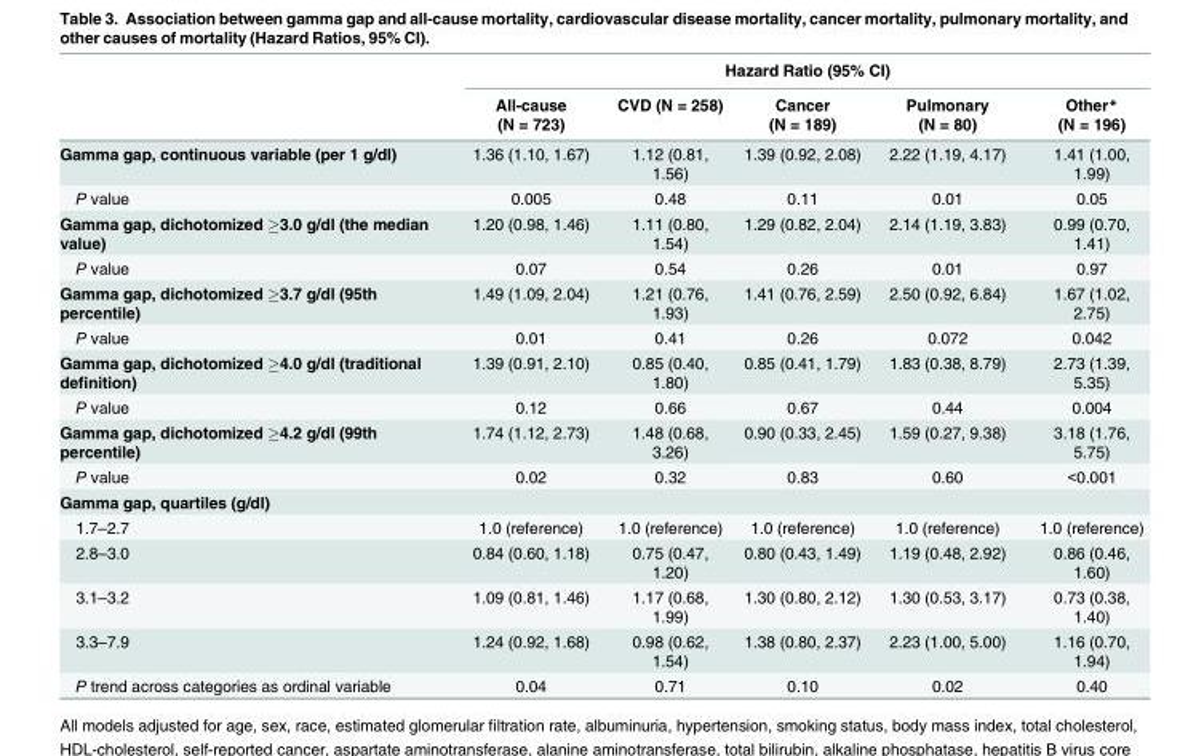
<table><thead><tr><td rowspan="2"></td><td colspan="5">Hazard Ratio (95% CI)</td></tr><tr><td>All-cause (N = 723)</td><td>CVD (N = 258)</td><td>Cancer (N = 189)</td><td>Pulmonary (N = 80)</td><td>Other* (N = 196)</td></tr></thead><tbody><tr><td>Gamma gap, continuous variable (per 1 g/dl)</td><td>1.36 (1.10, 1.67)</td><td>1.12 (0.81, 1.56)</td><td>1.39 (0.92, 2.08)</td><td>2.22 (1.19, 4.17)</td><td>1.41 (1.00, 1.99)</td></tr><tr><td>P value</td><td>0.005</td><td>0.48</td><td>0.11</td><td>0.01</td><td>0.05</td></tr><tr><td>Gamma gap, dichotomized ≥3.0 g/dl (the median value)</td><td>1.20 (0.98, 1.46)</td><td>1.11 (0.80, 1.54)</td><td>1.29 (0.82, 2.04)</td><td>2.14 (1.19, 3.83)</td><td>0.99 (0.70, 1.41)</td></tr><tr><td>P value</td><td>0.07</td><td>0.54</td><td>0.26</td><td>0.01</td><td>0.97</td></tr><tr><td>Gamma gap, dichotomized ≥3.7 g/dl (95th percentile)</td><td>1.49 (1.09, 2.04)</td><td>1.21 (0.76, 1.93)</td><td>1.41 (0.76, 2.59)</td><td>2.50 (0.92, 6.84)</td><td>1.67 (1.02, 2.75)</td></tr><tr><td>P value</td><td>0.01</td><td>0.41</td><td>0.26</td><td>0.072</td><td>0.042</td></tr><tr><td>Gamma gap, dichotomized ≥4.0 g/dl (traditional definition)</td><td>1.39 (0.91, 2.10)</td><td>0.85 (0.40, 1.80)</td><td>0.85 (0.41, 1.79)</td><td>1.83 (0.38, 8.79)</td><td>2.73 (1.39, 5.35)</td></tr><tr><td>P value</td><td>0.12</td><td>0.66</td><td>0.67</td><td>0.44</td><td>0.004</td></tr><tr><td>Gamma gap, dichotomized ≥4.2 g/dl (99th percentile)</td><td>1.74 (1.12, 2.73)</td><td>1.48 (0.68, 3.26)</td><td>0.90 (0.33, 2.45)</td><td>1.59 (0.27, 9.38)</td><td>3.18 (1.76, 5.75)</td></tr><tr><td>P value</td><td>0.02</td><td>0.32</td><td>0.83</td><td>0.60</td><td>&lt;0.001</td></tr><tr><td colspan="6">Gamma gap, quartiles (g/dl)</td></tr><tr><td>1.7–2.7</td><td>1.0 (reference)</td><td>1.0 (reference)</td><td>1.0 (reference)</td><td>1.0 (reference)</td><td>1.0 (reference)</td></tr><tr><td>2.8–3.0</td><td>0.84 (0.60, 1.18)</td><td>0.75 (0.47, 1.20)</td><td>0.80 (0.43, 1.49)</td><td>1.19 (0.48, 2.92)</td><td>0.86 (0.46, 1.60)</td></tr><tr><td>3.1–3.2</td><td>1.09 (0.81, 1.46)</td><td>1.17 (0.68, 1.99)</td><td>1.30 (0.80, 2.12)</td><td>1.30 (0.53, 3.17)</td><td>0.73 (0.38, 1.40)</td></tr><tr><td>3.3–7.9</td><td>1.24 (0.92, 1.68)</td><td>0.98 (0.62, 1.54)</td><td>1.38 (0.80, 2.37)</td><td>2.23 (1.00, 5.00)</td><td>1.16 (0.70, 1.94)</td></tr><tr><td>P trend across categories as ordinal variable</td><td>0.04</td><td>0.71</td><td>0.10</td><td>0.02</td><td>0.40</td></tr></tbody></table>